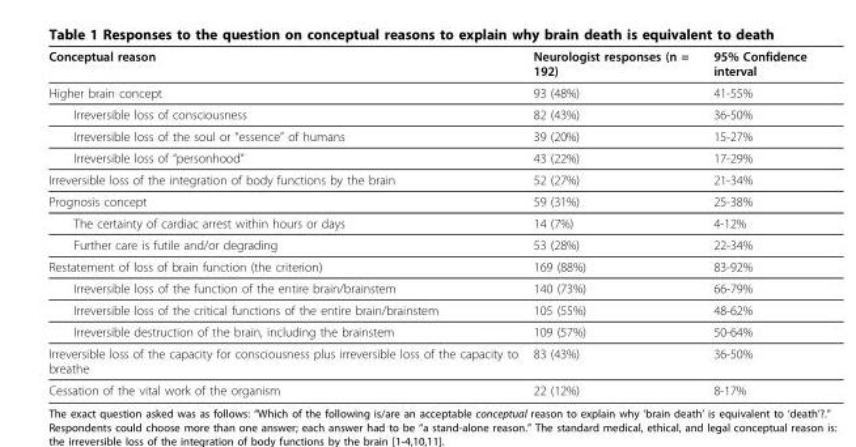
<table><thead><tr><td>Conceptual reason</td><td>Neurologist responses (n = 192)</td><td>95% Confidence interval</td></tr></thead><tbody><tr><td>Higher brain concept</td><td>93 (48%)</td><td>41-55%</td></tr><tr><td>Irreversible loss of consciousness</td><td>82 (43%)</td><td>36-50%</td></tr><tr><td>Irreversible loss of the soul or “essence” of humans</td><td>39 (20%)</td><td>15-27%</td></tr><tr><td>Irreversible loss of “personhood”</td><td>43 (22%)</td><td>17-29%</td></tr><tr><td>Irreversible loss of the integration of body functions by the brain</td><td>52 (27%)</td><td>21-34%</td></tr><tr><td>Prognosis concept</td><td>59 (31%)</td><td>25-38%</td></tr><tr><td>The certainty of cardiac arrest within hours or days</td><td>14 (7%)</td><td>4-12%</td></tr><tr><td>Further care is futile and/or degrading</td><td>53 (28%)</td><td>22-34%</td></tr><tr><td>Restatement of loss of brain function (the criterion)</td><td>169 (88%)</td><td>83-92%</td></tr><tr><td>Irreversible loss of the function of the entire brain/brainstem</td><td>140 (73%)</td><td>66-79%</td></tr><tr><td>Irreversible loss of the critical functions of the entire brain/brainstem</td><td>105 (55%)</td><td>48-62%</td></tr><tr><td>Irreversible destruction of the brain, including the brainstem</td><td>109 (57%)</td><td>50-64%</td></tr><tr><td>Irreversible loss of the capacity for consciousness plus irreversible loss of the capacity to breathe</td><td>83 (43%)</td><td>36-50%</td></tr><tr><td>Cessation of the vital work of the organism</td><td>22 (12%)</td><td>8-17%</td></tr></tbody></table>